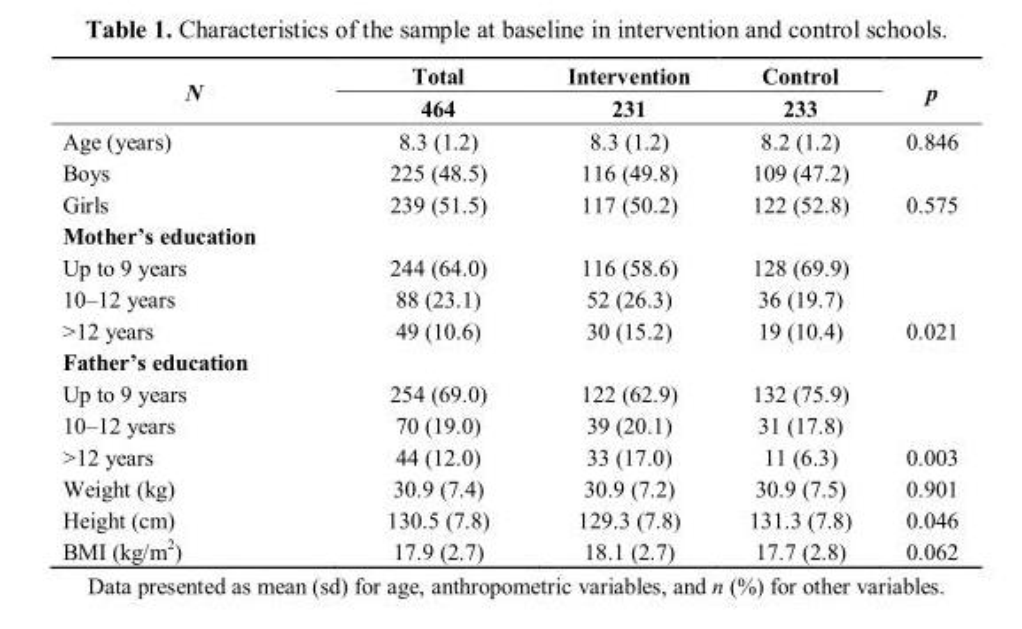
<table><thead><tr><td rowspan="2">N</td><td rowspan="2">Total 464</td><td rowspan="2">Intervention 231</td><td rowspan="2">Control 233</td><td rowspan="2">p</td></tr><tr></tr></thead><tbody><tr><td>Age (years)</td><td>8.3 (1.2)</td><td>8.3 (1.2)</td><td>8.2 (1.2)</td><td>0.846</td></tr><tr><td>Boys</td><td>225 (48.5)</td><td>116 (49.8)</td><td>109 (47.2)</td><td></td></tr><tr><td>Girls</td><td>239 (51.5)</td><td>117 (50.2)</td><td>122 (52.8)</td><td>0.575</td></tr><tr><td colspan="5">Mother’s education</td></tr><tr><td>Up to 9 years</td><td>244 (64.0)</td><td>116 (58.6)</td><td>128 (69.9)</td><td></td></tr><tr><td>10–12 years</td><td>88 (23.1)</td><td>52 (26.3)</td><td>36 (19.7)</td><td></td></tr><tr><td>&gt;12 years</td><td>49 (10.6)</td><td>30 (15.2)</td><td>19 (10.4)</td><td>0.021</td></tr><tr><td colspan="5">Father’s education</td></tr><tr><td>Up to 9 years</td><td>254 (69.0)</td><td>122 (62.9)</td><td>132 (75.9)</td><td></td></tr><tr><td>10–12 years</td><td>70 (19.0)</td><td>39 (20.1)</td><td>31 (17.8)</td><td></td></tr><tr><td>&gt;12 years</td><td>44 (12.0)</td><td>33 (17.0)</td><td>11 (6.3)</td><td>0.003</td></tr><tr><td>Weight (kg)</td><td>30.9 (7.4)</td><td>30.9 (7.2)</td><td>30.9 (7.5)</td><td>0.901</td></tr><tr><td>Height (cm)</td><td>130.5 (7.8)</td><td>129.3 (7.8)</td><td>131.3 (7.8)</td><td>0.046</td></tr><tr><td>BMI (kg/m<sup>2</sup>)</td><td>17.9 (2.7)</td><td>18.1 (2.7)</td><td>17.7 (2.8)</td><td>0.062</td></tr></tbody></table>